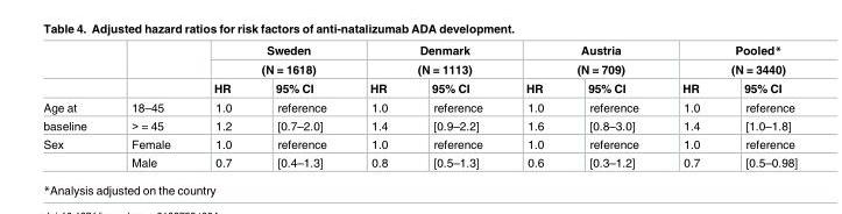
<table><thead><tr><td rowspan="3"></td><td rowspan="3"></td><td rowspan="2" colspan="2">Sweden (N = 1618)</td><td rowspan="2" colspan="2">Denmark (N = 1113)</td><td rowspan="2" colspan="2">Austria (N = 709)</td><td rowspan="2" colspan="2">Pooled* (N = 3440)</td></tr><tr></tr><tr><td>HR</td><td>95% CI</td><td>HR</td><td>95% CI</td><td>HR</td><td>95% CI</td><td>HR</td><td>95% CI</td></tr></thead><tbody><tr><td>Age at</td><td>18–45</td><td>1.0</td><td>reference</td><td>1.0</td><td>reference</td><td>1.0</td><td>reference</td><td>1.0</td><td>reference</td></tr><tr><td>baseline</td><td>&gt; = 45</td><td>1.2</td><td>[0.7–2.0]</td><td>1.4</td><td>[0.9–2.2]</td><td>1.6</td><td>[0.8–3.0]</td><td>1.4</td><td>[1.0–1.8]</td></tr><tr><td rowspan="2">Sex</td><td>Female</td><td>1.0</td><td>reference</td><td>1.0</td><td>reference</td><td>1.0</td><td>reference</td><td>1.0</td><td>reference</td></tr><tr><td>Male</td><td>0.7</td><td>[0.4–1.3]</td><td>0.8</td><td>[0.5–1.3]</td><td>0.6</td><td>[0.3–1.2]</td><td>0.7</td><td>[0.5–0.98]</td></tr></tbody></table>